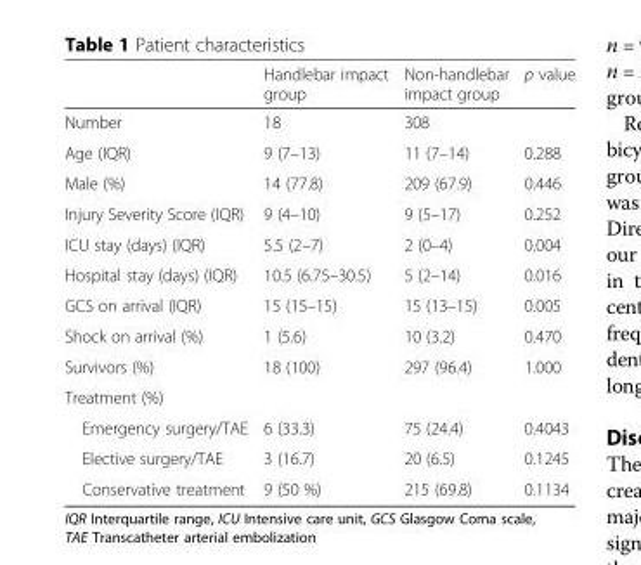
<table><thead><tr><td></td><td>Handlebar impact group</td><td>Non-handlebar impact group</td><td>p value</td></tr></thead><tbody><tr><td>Number</td><td>18</td><td>308</td><td></td></tr><tr><td>Age (IQR)</td><td>9 (7–13)</td><td>11 (7–14)</td><td>0.288</td></tr><tr><td>Male (%)</td><td>14 (77.8)</td><td>209 (67.9)</td><td>0.446</td></tr><tr><td>Injury Severity Score (IQR)</td><td>9 (4–10)</td><td>9 (5–17)</td><td>0.252</td></tr><tr><td>ICU stay (days) (IQR)</td><td>5.5 (2–7)</td><td>2 (0–4)</td><td>0.004</td></tr><tr><td>Hospital stay (days) (IQR)</td><td>10.5 (6.75–30.5)</td><td>5 (2–14)</td><td>0.016</td></tr><tr><td>GCS on arrival (IQR)</td><td>15 (15–15)</td><td>15 (13–15)</td><td>0.005</td></tr><tr><td>Shock on arrival (%)</td><td>1 (5.6)</td><td>10 (3.2)</td><td>0.470</td></tr><tr><td>Survivors (%)</td><td>18 (100)</td><td>297 (96.4)</td><td>1.000</td></tr><tr><td colspan="4">Treatment (%)</td></tr><tr><td>Emergency surgery/TAE</td><td>6 (33.3)</td><td>75 (24.4)</td><td>0.4043</td></tr><tr><td>Elective surgery/TAE</td><td>3 (16.7)</td><td>20 (6.5)</td><td>0.1245</td></tr><tr><td>Conservative treatment</td><td>9 (50 %)</td><td>215 (69.8)</td><td>0.1134</td></tr></tbody></table>